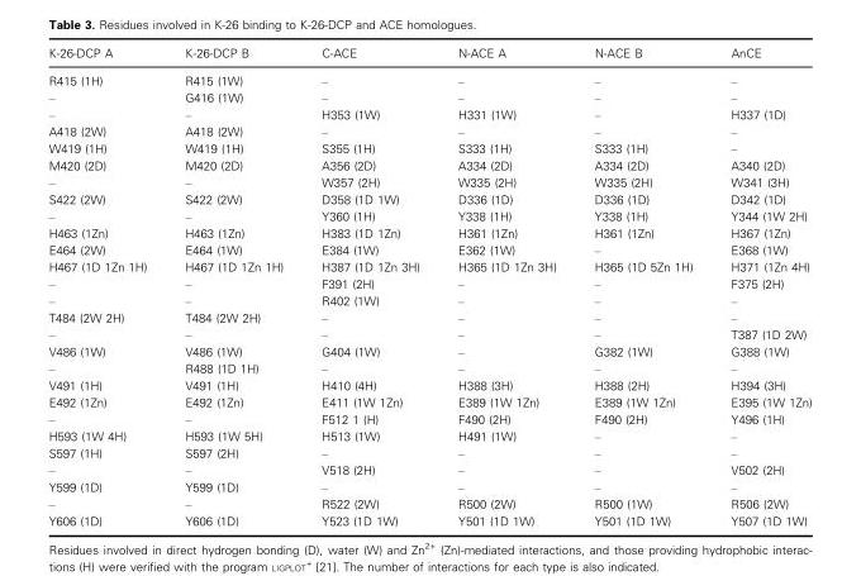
<table><thead><tr><td>K-26-DCP A</td><td>K-26-DCP B</td><td>C-ACE</td><td>N-ACE A</td><td>N-ACE B</td><td>AnCE</td></tr></thead><tbody><tr><td>R415 (1H)</td><td>R415 (1W)</td><td>–</td><td>–</td><td>–</td><td>–</td></tr><tr><td>–</td><td>G416 (1W)</td><td>–</td><td>–</td><td>–</td><td>–</td></tr><tr><td>–</td><td>–</td><td>H353 (1W)</td><td>H331 (1W)</td><td>–</td><td>H337 (1D)</td></tr><tr><td>A418 (2W)</td><td>A418 (2W)</td><td>–</td><td>–</td><td>–</td><td>–</td></tr><tr><td>W419 (1H)</td><td>W419 (1H)</td><td>S355 (1H)</td><td>S333 (1H)</td><td>S333 (1H)</td><td>–</td></tr><tr><td>M420 (2D)</td><td>M420 (2D)</td><td>A356 (2D)</td><td>A334 (2D)</td><td>A334 (2D)</td><td>A340 (2D)</td></tr><tr><td>–</td><td>–</td><td>W357 (2H)</td><td>W335 (2H)</td><td>W335 (2H)</td><td>W341 (3H)</td></tr><tr><td>S422 (2W)</td><td>S422 (2W)</td><td>D358 (1D 1W)</td><td>D336 (1D)</td><td>D336 (1D)</td><td>D342 (1D)</td></tr><tr><td>–</td><td>–</td><td>Y360 (1H)</td><td>Y338 (1H)</td><td>Y338 (1H)</td><td>Y344 (1W 2H)</td></tr><tr><td>H463 (1Zn)</td><td>H463 (1Zn)</td><td>H383 (1D 1Zn)</td><td>H361 (1Zn)</td><td>H361 (1Zn)</td><td>H367 (1Zn)</td></tr><tr><td>E464 (2W)</td><td>E464 (1W)</td><td>E384 (1W)</td><td>E362 (1W)</td><td>–</td><td>E368 (1W)</td></tr><tr><td>H467 (1D 1Zn 1H)</td><td>H467 (1D 1Zn 1H)</td><td>H387 (1D 1Zn 3H)</td><td>H365 (1D 1Zn 3H)</td><td>H365 (1D 5Zn 1H)</td><td>H371 (1Zn 4H)</td></tr><tr><td>–</td><td>–</td><td>F391 (2H)</td><td>–</td><td>–</td><td>F375 (2H)</td></tr><tr><td>–</td><td>–</td><td>R402 (1W)</td><td>–</td><td>–</td><td>–</td></tr><tr><td>T484 (2W 2H)</td><td>T484 (2W 2H)</td><td>–</td><td>–</td><td>–</td><td>–</td></tr><tr><td>–</td><td>–</td><td>–</td><td>–</td><td>–</td><td>T387 (1D 2W)</td></tr><tr><td>V486 (1W)</td><td>V486 (1W)</td><td>G404 (1W)</td><td>–</td><td>G382 (1W)</td><td>G388 (1W)</td></tr><tr><td>–</td><td>R488 (1D 1H)</td><td>–</td><td>–</td><td>–</td><td>–</td></tr><tr><td>V491 (1H)</td><td>V491 (1H)</td><td>H410 (4H)</td><td>H388 (3H)</td><td>H388 (2H)</td><td>H394 (3H)</td></tr><tr><td>E492 (1Zn)</td><td>E492 (1Zn)</td><td>E411 (1W 1Zn)</td><td>E389 (1W 1Zn)</td><td>E389 (1W 1Zn)</td><td>E395 (1W 1Zn)</td></tr><tr><td>–</td><td>–</td><td>F512 1 (H)</td><td>F490 (2H)</td><td>F490 (2H)</td><td>Y496 (1H)</td></tr><tr><td>H593 (1W 4H)</td><td>H593 (1W 5H)</td><td>H513 (1W)</td><td>H491 (1W)</td><td>–</td><td>–</td></tr><tr><td>S597 (1H)</td><td>S597 (2H)</td><td>–</td><td>–</td><td>–</td><td>–</td></tr><tr><td>–</td><td>–</td><td>V518 (2H)</td><td>–</td><td>–</td><td>V502 (2H)</td></tr><tr><td>Y599 (1D)</td><td>Y599 (1D)</td><td>–</td><td>–</td><td>–</td><td>–</td></tr><tr><td>–</td><td>–</td><td>R522 (2W)</td><td>R500 (2W)</td><td>R500 (1W)</td><td>R506 (2W)</td></tr><tr><td>Y606 (1D)</td><td>Y606 (1D)</td><td>Y523 (1D 1W)</td><td>Y501 (1D 1W)</td><td>Y501 (1D 1W)</td><td>Y507 (1D 1W)</td></tr></tbody></table>